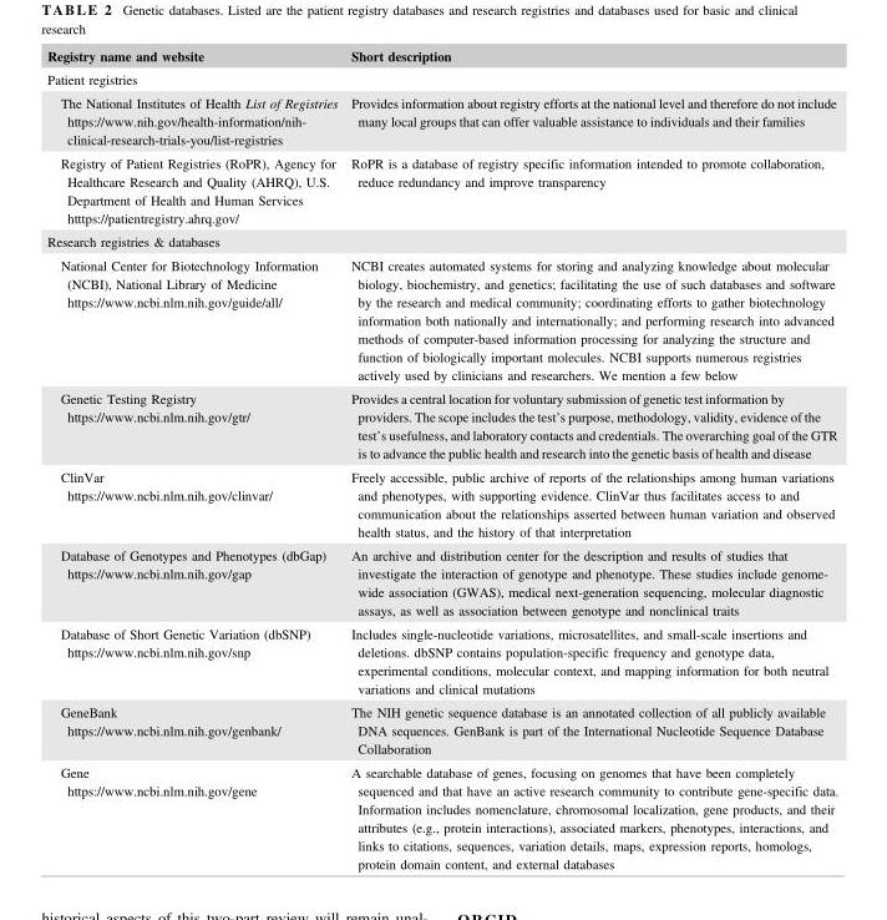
<table><thead><tr><td>Registry name and website</td><td>Short description</td></tr></thead><tbody><tr><td colspan="2">Patient registries</td></tr><tr><td>The National Institutes of Health List of Registries https://www.nih.gov/health-information/nih- clinical-research-trials-you/list-registries</td><td>Provides information about registry efforts at the national level and therefore do not include many local groups that can offer valuable assistance to individuals and their families</td></tr><tr><td>Registry of Patient Registries (RoPR), Agency for Healthcare Research and Quality (AHRQ), U.S. Department of Health and Human Services htttps://patientregistry.ahrq.gov/</td><td>RoPR is a database of registry specific information intended to promote collaboration, reduce redundancy and improve transparency</td></tr><tr><td colspan="2">Research registries &amp; databases</td></tr><tr><td>National Center for Biotechnology Information (NCBI), National Library of Medicine https://www.ncbi.nlm.nih.gov/guide/all/</td><td>NCBI creates automated systems for storing and analyzing knowledge about molecular biology, biochemistry, and genetics; facilitating the use of such databases and software by the research and medical community; coordinating efforts to gather biotechnology information both nationally and internationally; and performing research into advanced methods of computer-based information processing for analyzing the structure and function of biologically important molecules. NCBI supports numerous registries actively used by clinicians and researchers. We mention a few below</td></tr><tr><td>Genetic Testing Registry https://www.ncbi.nlm.nih.gov/gtr/</td><td>Provides a central location for voluntary submission of genetic test information by providers. The scope includes the test’s purpose, methodology, validity, evidence of the test’s usefulness, and laboratory contacts and credentials. The overarching goal of the GTR is to advance the public health and research into the genetic basis of health and disease</td></tr><tr><td>ClinVar https://www.ncbi.nlm.nih.gov/clinvar/</td><td>Freely accessible, public archive of reports of the relationships among human variations and phenotypes, with supporting evidence. ClinVar thus facilitates access to and communication about the relationships asserted between human variation and observed health status, and the history of that interpretation</td></tr><tr><td>Database of Genotypes and Phenotypes (dbGap) https://www.ncbi.nlm.nih.gov/gap</td><td>An archive and distribution center for the description and results of studies that investigate the interaction of genotype and phenotype. These studies include genome- wide association (GWAS), medical next-generation sequencing, molecular diagnostic assays, as well as association between genotype and nonclinical traits</td></tr><tr><td>Database of Short Genetic Variation (dbSNP) https://www.ncbi.nlm.nih.gov/snp</td><td>Includes single-nucleotide variations, microsatellites, and small-scale insertions and deletions. dbSNP contains population-specific frequency and genotype data, experimental conditions, molecular context, and mapping information for both neutral variations and clinical mutations</td></tr><tr><td>GeneBank https://www.ncbi.nlm.nih.gov/genbank/</td><td>The NIH genetic sequence database is an annotated collection of all publicly available DNA sequences. GenBank is part of the International Nucleotide Sequence Database Collaboration</td></tr><tr><td>Gene https://www.ncbi.nlm.nih.gov/gene</td><td>A searchable database of genes, focusing on genomes that have been completely sequenced and that have an active research community to contribute gene-specific data. Information includes nomenclature, chromosomal localization, gene products, and their attributes (e.g., protein interactions), associated markers, phenotypes, interactions, and links to citations, sequences, variation details, maps, expression reports, homologs, protein domain content, and external databases</td></tr></tbody></table>